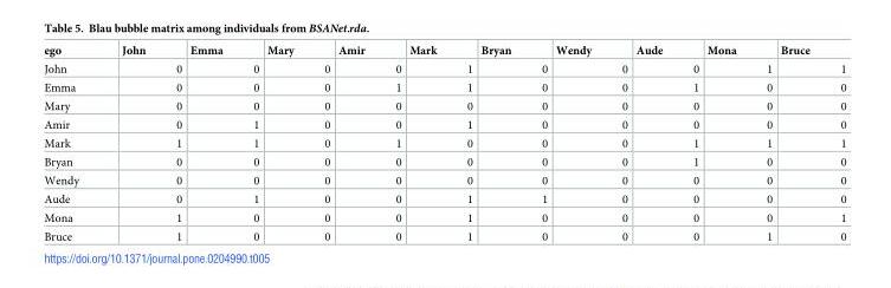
<table><thead><tr><td>ego</td><td>John</td><td>Emma</td><td>Mary</td><td>Amir</td><td>Mark</td><td>Bryan</td><td>Wendy</td><td>Aude</td><td>Mona</td><td>Bruce</td></tr></thead><tbody><tr><td>John</td><td>0</td><td>0</td><td>0</td><td>0</td><td>1</td><td>0</td><td>0</td><td>0</td><td>1</td><td>1</td></tr><tr><td>Emma</td><td>0</td><td>0</td><td>0</td><td>1</td><td>1</td><td>0</td><td>0</td><td>1</td><td>0</td><td>0</td></tr><tr><td>Mary</td><td>0</td><td>0</td><td>0</td><td>0</td><td>0</td><td>0</td><td>0</td><td>0</td><td>0</td><td>0</td></tr><tr><td>Amir</td><td>0</td><td>1</td><td>0</td><td>0</td><td>1</td><td>0</td><td>0</td><td>0</td><td>0</td><td>0</td></tr><tr><td>Mark</td><td>1</td><td>1</td><td>0</td><td>1</td><td>0</td><td>0</td><td>0</td><td>1</td><td>1</td><td>1</td></tr><tr><td>Bryan</td><td>0</td><td>0</td><td>0</td><td>0</td><td>0</td><td>0</td><td>0</td><td>1</td><td>0</td><td>0</td></tr><tr><td>Wendy</td><td>0</td><td>0</td><td>0</td><td>0</td><td>0</td><td>0</td><td>0</td><td>0</td><td>0</td><td>0</td></tr><tr><td>Aude</td><td>0</td><td>1</td><td>0</td><td>0</td><td>1</td><td>1</td><td>0</td><td>0</td><td>0</td><td>0</td></tr><tr><td>Mona</td><td>1</td><td>0</td><td>0</td><td>0</td><td>1</td><td>0</td><td>0</td><td>0</td><td>0</td><td>1</td></tr><tr><td>Bruce</td><td>1</td><td>0</td><td>0</td><td>0</td><td>1</td><td>0</td><td>0</td><td>0</td><td>1</td><td>0</td></tr></tbody></table>